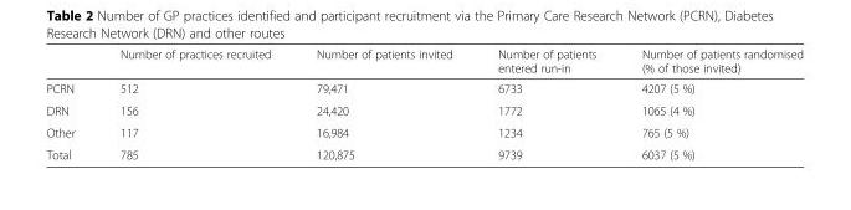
<table><thead><tr><td></td><td>Number of practices recruited</td><td>Number of patients invited</td><td>Number of patients entered run-in</td><td>Number of patients randomised (% of those invited)</td></tr></thead><tbody><tr><td>PCRN</td><td>512</td><td>79,471</td><td>6733</td><td>4207 (5 %)</td></tr><tr><td>DRN</td><td>156</td><td>24,420</td><td>1772</td><td>1065 (4 %)</td></tr><tr><td>Other</td><td>117</td><td>16,984</td><td>1234</td><td>765 (5 %)</td></tr><tr><td>Total</td><td>785</td><td>120,875</td><td>9739</td><td>6037 (5 %)</td></tr></tbody></table>